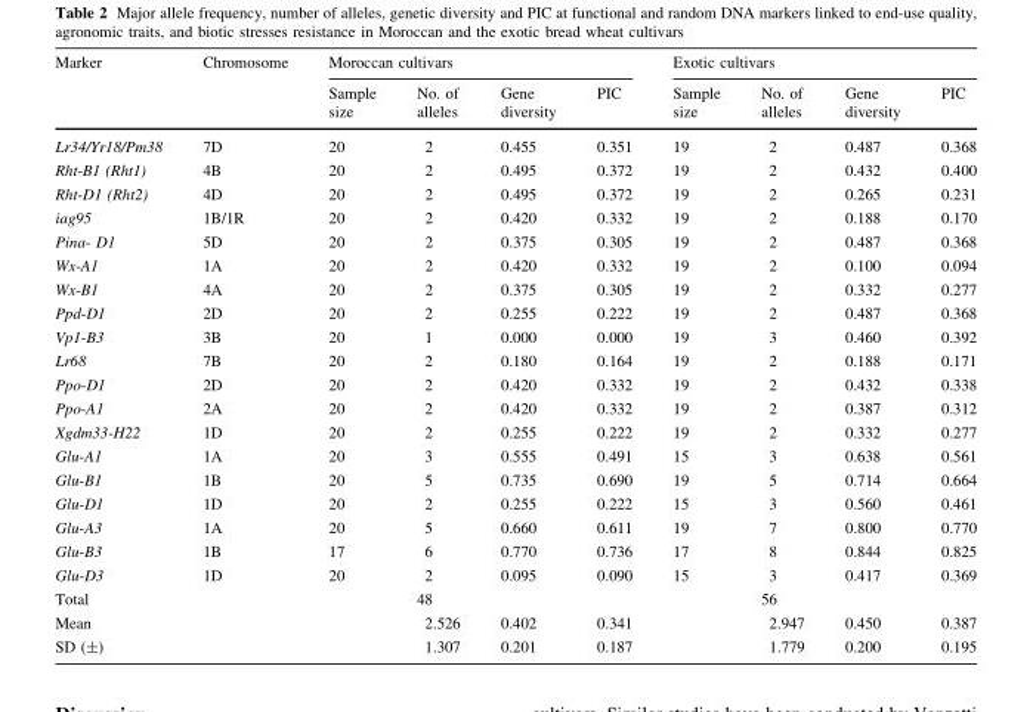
<table><thead><tr><td rowspan="2">Marker</td><td rowspan="2">Chromosome</td><td colspan="4">Moroccan cultivars</td><td colspan="4">Exotic cultivars</td></tr><tr><td>Sample size</td><td>No. of alleles</td><td>Gene diversity</td><td>PIC</td><td>Sample size</td><td>No. of alleles</td><td>Gene diversity</td><td>PIC</td></tr></thead><tbody><tr><td>Lr34/Yr18/Pm38</td><td>7D</td><td>20</td><td>2</td><td>0.455</td><td>0.351</td><td>19</td><td>2</td><td>0.487</td><td>0.368</td></tr><tr><td>Rht-B1 (Rht1)</td><td>4B</td><td>20</td><td>2</td><td>0.495</td><td>0.372</td><td>19</td><td>2</td><td>0.432</td><td>0.400</td></tr><tr><td>Rht-D1 (Rht2)</td><td>4D</td><td>20</td><td>2</td><td>0.495</td><td>0.372</td><td>19</td><td>2</td><td>0.265</td><td>0.231</td></tr><tr><td>iag95</td><td>1B/1R</td><td>20</td><td>2</td><td>0.420</td><td>0.332</td><td>19</td><td>2</td><td>0.188</td><td>0.170</td></tr><tr><td>Pina- D1</td><td>5D</td><td>20</td><td>2</td><td>0.375</td><td>0.305</td><td>19</td><td>2</td><td>0.487</td><td>0.368</td></tr><tr><td>Wx-A1</td><td>1A</td><td>20</td><td>2</td><td>0.420</td><td>0.332</td><td>19</td><td>2</td><td>0.100</td><td>0.094</td></tr><tr><td>Wx-B1</td><td>4A</td><td>20</td><td>2</td><td>0.375</td><td>0.305</td><td>19</td><td>2</td><td>0.332</td><td>0.277</td></tr><tr><td>Ppd-D1</td><td>2D</td><td>20</td><td>2</td><td>0.255</td><td>0.222</td><td>19</td><td>2</td><td>0.487</td><td>0.368</td></tr><tr><td>Vp1-B3</td><td>3B</td><td>20</td><td>1</td><td>0.000</td><td>0.000</td><td>19</td><td>3</td><td>0.460</td><td>0.392</td></tr><tr><td>Lr68</td><td>7B</td><td>20</td><td>2</td><td>0.180</td><td>0.164</td><td>19</td><td>2</td><td>0.188</td><td>0.171</td></tr><tr><td>Ppo-D1</td><td>2D</td><td>20</td><td>2</td><td>0.420</td><td>0.332</td><td>19</td><td>2</td><td>0.432</td><td>0.338</td></tr><tr><td>Ppo-A1</td><td>2A</td><td>20</td><td>2</td><td>0.420</td><td>0.332</td><td>19</td><td>2</td><td>0.387</td><td>0.312</td></tr><tr><td>Xgdm33-H22</td><td>1D</td><td>20</td><td>2</td><td>0.255</td><td>0.222</td><td>19</td><td>2</td><td>0.332</td><td>0.277</td></tr><tr><td>Glu-A1</td><td>1A</td><td>20</td><td>3</td><td>0.555</td><td>0.491</td><td>15</td><td>3</td><td>0.638</td><td>0.561</td></tr><tr><td>Glu-B1</td><td>1B</td><td>20</td><td>5</td><td>0.735</td><td>0.690</td><td>19</td><td>5</td><td>0.714</td><td>0.664</td></tr><tr><td>Glu-D1</td><td>1D</td><td>20</td><td>2</td><td>0.255</td><td>0.222</td><td>15</td><td>3</td><td>0.560</td><td>0.461</td></tr><tr><td>Glu-A3</td><td>1A</td><td>20</td><td>5</td><td>0.660</td><td>0.611</td><td>19</td><td>7</td><td>0.800</td><td>0.770</td></tr><tr><td>Glu-B3</td><td>1B</td><td>17</td><td>6</td><td>0.770</td><td>0.736</td><td>17</td><td>8</td><td>0.844</td><td>0.825</td></tr><tr><td>Glu-D3</td><td>1D</td><td>20</td><td>2</td><td>0.095</td><td>0.090</td><td>15</td><td>3</td><td>0.417</td><td>0.369</td></tr><tr><td>Total</td><td></td><td></td><td>48</td><td></td><td></td><td></td><td>56</td><td></td><td></td></tr><tr><td>Mean</td><td></td><td></td><td>2.526</td><td>0.402</td><td>0.341</td><td></td><td>2.947</td><td>0.450</td><td>0.387</td></tr><tr><td>SD (±)</td><td></td><td></td><td>1.307</td><td>0.201</td><td>0.187</td><td></td><td>1.779</td><td>0.200</td><td>0.195</td></tr></tbody></table>